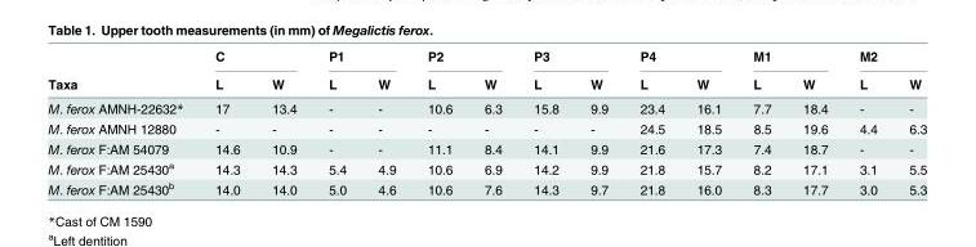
<table><thead><tr><td rowspan="2">Taxa</td><td colspan="2">C</td><td colspan="2">P1</td><td colspan="2">P2</td><td colspan="2">P3</td><td colspan="2">P4</td><td colspan="2">M1</td><td colspan="2">M2</td></tr><tr><td>L</td><td>W</td><td>L</td><td>W</td><td>L</td><td>W</td><td>L</td><td>W</td><td>L</td><td>W</td><td>L</td><td>W</td><td>L</td><td>W</td></tr></thead><tbody><tr><td>M. ferox AMNH-22632*</td><td>17</td><td>13.4</td><td>-</td><td>-</td><td>10.6</td><td>6.3</td><td>15.8</td><td>9.9</td><td>23.4</td><td>16.1</td><td>7.7</td><td>18.4</td><td>-</td><td>-</td></tr><tr><td>M. ferox AMNH 12880</td><td>-</td><td>-</td><td>-</td><td>-</td><td>-</td><td>-</td><td>-</td><td>-</td><td>24.5</td><td>18.5</td><td>8.5</td><td>19.6</td><td>4.4</td><td>6.3</td></tr><tr><td>M. ferox F:AM 54079</td><td>14.6</td><td>10.9</td><td>-</td><td>-</td><td>11.1</td><td>8.4</td><td>14.1</td><td>9.9</td><td>21.6</td><td>17.3</td><td>7.4</td><td>18.7</td><td>-</td><td>-</td></tr><tr><td>M. ferox F:AM 25430<sup>a</sup></td><td>14.3</td><td>14.3</td><td>5.4</td><td>4.9</td><td>10.6</td><td>6.9</td><td>14.2</td><td>9.9</td><td>21.8</td><td>15.7</td><td>8.2</td><td>17.1</td><td>3.1</td><td>5.5</td></tr><tr><td>M. ferox F:AM 25430<sup>b</sup></td><td>14.0</td><td>14.0</td><td>5.0</td><td>4.6</td><td>10.6</td><td>7.6</td><td>14.3</td><td>9.7</td><td>21.8</td><td>16.0</td><td>8.3</td><td>17.7</td><td>3.0</td><td>5.3</td></tr></tbody></table>